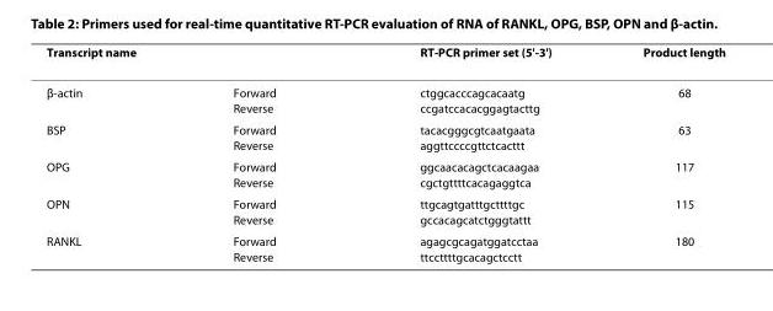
<table><thead><tr><td>Transcript name</td><td></td><td>RT-PCR primer set (5&#x27;-3&#x27;)</td><td>Product length</td></tr></thead><tbody><tr><td>β-actin</td><td>Forward Reverse</td><td>ctggcacccagcacaatg ccgatccacacggagtacttg</td><td>68</td></tr><tr><td>BSP</td><td>Forward Reverse</td><td>tacacgggcgtcaatgaata aggttccccgttctcacttt</td><td>63</td></tr><tr><td>OPG</td><td>Forward Reverse</td><td>ggcaacacagctcacaagaa cgctgttttcacagaggtca</td><td>117</td></tr><tr><td>OPN</td><td>Forward Reverse</td><td>ttgcagtgatttgcttttgc gccacagcatctgggtattt</td><td>115</td></tr><tr><td>RANKL</td><td>Forward Reverse</td><td>agagcgcagatggatcctaa ttccttttgcacagctcctt</td><td>180</td></tr></tbody></table>